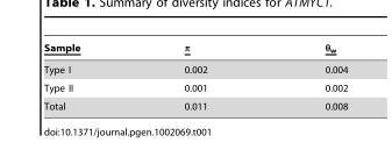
<table><thead><tr><td>Sample</td><td>π</td><td>θ<sub>w</sub></td></tr></thead><tbody><tr><td>Type I</td><td>0.002</td><td>0.004</td></tr><tr><td>Type II</td><td>0.001</td><td>0.002</td></tr><tr><td>Total</td><td>0.011</td><td>0.008</td></tr></tbody></table>